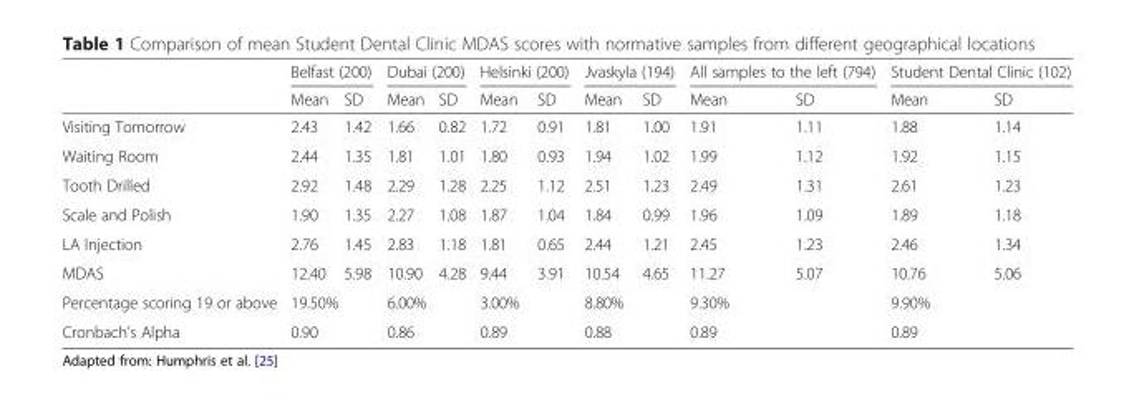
<table><thead><tr><td rowspan="2"></td><td colspan="2">Belfast (200)</td><td colspan="2">Dubai (200)</td><td colspan="2">Helsinki (200)</td><td colspan="2">Jvaskyla (194)</td><td colspan="2">All samples to the left (794)</td><td colspan="2">Student Dental Clinic (102)</td></tr><tr><td>Mean</td><td>SD</td><td>Mean</td><td>SD</td><td>Mean</td><td>SD</td><td>Mean</td><td>SD</td><td>Mean</td><td>SD</td><td>Mean</td><td>SD</td></tr></thead><tbody><tr><td>Visiting Tomorrow</td><td>2.43</td><td>1.42</td><td>1.66</td><td>0.82</td><td>1.72</td><td>0.91</td><td>1.81</td><td>1.00</td><td>1.91</td><td>1.11</td><td>1.88</td><td>1.14</td></tr><tr><td>Waiting Room</td><td>2.44</td><td>1.35</td><td>1.81</td><td>1.01</td><td>1.80</td><td>0.93</td><td>1.94</td><td>1.02</td><td>1.99</td><td>1.12</td><td>1.92</td><td>1.15</td></tr><tr><td>Tooth Drilled</td><td>2.92</td><td>1.48</td><td>2.29</td><td>1.28</td><td>2.25</td><td>1.12</td><td>2.51</td><td>1.23</td><td>2.49</td><td>1.31</td><td>2.61</td><td>1.23</td></tr><tr><td>Scale and Polish</td><td>1.90</td><td>1.35</td><td>2.27</td><td>1.08</td><td>1.87</td><td>1.04</td><td>1.84</td><td>0.99</td><td>1.96</td><td>1.09</td><td>1.89</td><td>1.18</td></tr><tr><td>LA Injection</td><td>2.76</td><td>1.45</td><td>2.83</td><td>1.18</td><td>1.81</td><td>0.65</td><td>2.44</td><td>1.21</td><td>2.45</td><td>1.23</td><td>2.46</td><td>1.34</td></tr><tr><td>MDAS</td><td>12.40</td><td>5.98</td><td>10.90</td><td>4.28</td><td>9.44</td><td>3.91</td><td>10.54</td><td>4.65</td><td>11.27</td><td>5.07</td><td>10.76</td><td>5.06</td></tr><tr><td>Percentage scoring 19 or above</td><td colspan="2">19.50%</td><td colspan="2">6.00%</td><td colspan="2">3.00%</td><td colspan="2">8.80%</td><td colspan="2">9.30%</td><td colspan="2">9.90%</td></tr><tr><td>Cronbach’s Alpha</td><td colspan="2">0.90</td><td colspan="2">0.86</td><td colspan="2">0.89</td><td colspan="2">0.88</td><td colspan="2">0.89</td><td colspan="2">0.89</td></tr></tbody></table>